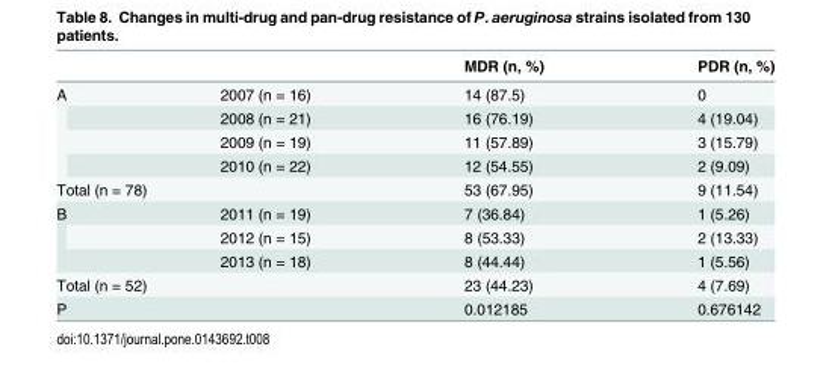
<table><thead><tr><td></td><td></td><td>MDR (n, %)</td><td>PDR (n, %)</td></tr></thead><tbody><tr><td rowspan="4">A</td><td>2007 (n = 16)</td><td>14 (87.5)</td><td>0</td></tr><tr><td>2008 (n = 21)</td><td>16 (76.19)</td><td>4 (19.04)</td></tr><tr><td>2009 (n = 19)</td><td>11 (57.89)</td><td>3 (15.79)</td></tr><tr><td>2010 (n = 22)</td><td>12 (54.55)</td><td>2 (9.09)</td></tr><tr><td colspan="2">Total (n = 78)</td><td>53 (67.95)</td><td>9 (11.54)</td></tr><tr><td rowspan="3">B</td><td>2011 (n = 19)</td><td>7 (36.84)</td><td>1 (5.26)</td></tr><tr><td>2012 (n = 15)</td><td>8 (53.33)</td><td>2 (13.33)</td></tr><tr><td>2013 (n = 18)</td><td>8 (44.44)</td><td>1 (5.56)</td></tr><tr><td colspan="2">Total (n = 52)</td><td>23 (44.23)</td><td>4 (7.69)</td></tr><tr><td colspan="2">P</td><td>0.012185</td><td>0.676142</td></tr></tbody></table>